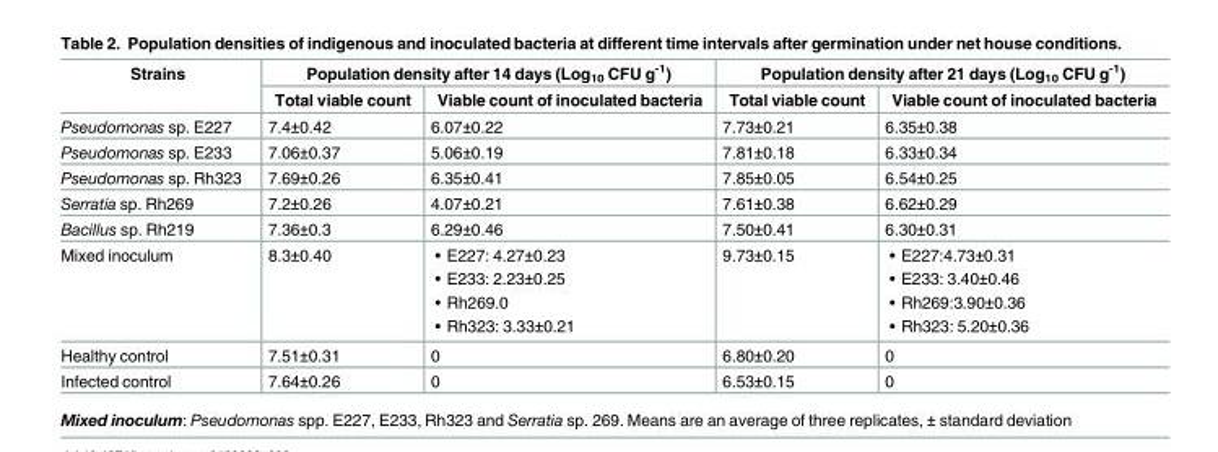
<table><thead><tr><td rowspan="2">Strains</td><td colspan="2">Population density after 14 days (Log<sub>10</sub> CFU g<sup>-1</sup>)</td><td colspan="2">Population density after 21 days (Log<sub>10</sub> CFU g<sup>-1</sup>)</td></tr><tr><td>Total viable count</td><td>Viable count of inoculated bacteria</td><td>Total viable count</td><td>Viable count of inoculated bacteria</td></tr></thead><tbody><tr><td>Pseudomonas sp. E227</td><td>7.4±0.42</td><td>6.07±0.22</td><td>7.73±0.21</td><td>6.35±0.38</td></tr><tr><td>Pseudomonas sp. E233</td><td>7.06±0.37</td><td>5.06±0.19</td><td>7.81±0.18</td><td>6.33±0.34</td></tr><tr><td>Pseudomonas sp. Rh323</td><td>7.69±0.26</td><td>6.35±0.41</td><td>7.85±0.05</td><td>6.54±0.25</td></tr><tr><td>Serratia sp. Rh269</td><td>7.2±0.26</td><td>4.07±0.21</td><td>7.61±0.38</td><td>6.62±0.29</td></tr><tr><td>Bacillus sp. Rh219</td><td>7.36±0.3</td><td>6.29±0.46</td><td>7.50±0.41</td><td>6.30±0.31</td></tr><tr><td>Mixed inoculum</td><td>8.3±0.40</td><td>• E227: 4.27±0.23 • E233: 2.23±0.25 • Rh269.0 • Rh323: 3.33±0.21</td><td>9.73±0.15</td><td>• E227:4.73±0.31 • E233: 3.40±0.46 • Rh269:3.90±0.36 • Rh323: 5.20±0.36</td></tr><tr><td>Healthy control</td><td>7.51±0.31</td><td>0</td><td>6.80±0.20</td><td>0</td></tr><tr><td>Infected control</td><td>7.64±0.26</td><td>0</td><td>6.53±0.15</td><td>0</td></tr></tbody></table>